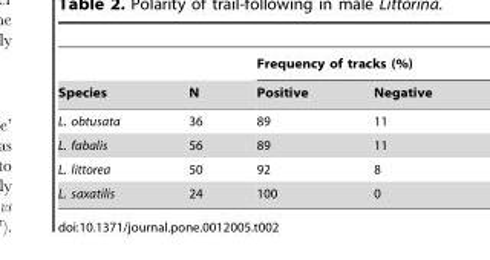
<table><thead><tr><td rowspan="2">Species</td><td rowspan="2">N</td><td colspan="2">Frequency of tracks (%)</td></tr><tr><td>Positive</td><td>Negative</td></tr></thead><tbody><tr><td>L. obtusata</td><td>36</td><td>89</td><td>11</td></tr><tr><td>L. fabalis</td><td>56</td><td>89</td><td>11</td></tr><tr><td>L. littorea</td><td>50</td><td>92</td><td>8</td></tr><tr><td>L. saxatilis</td><td>24</td><td>100</td><td>0</td></tr></tbody></table>